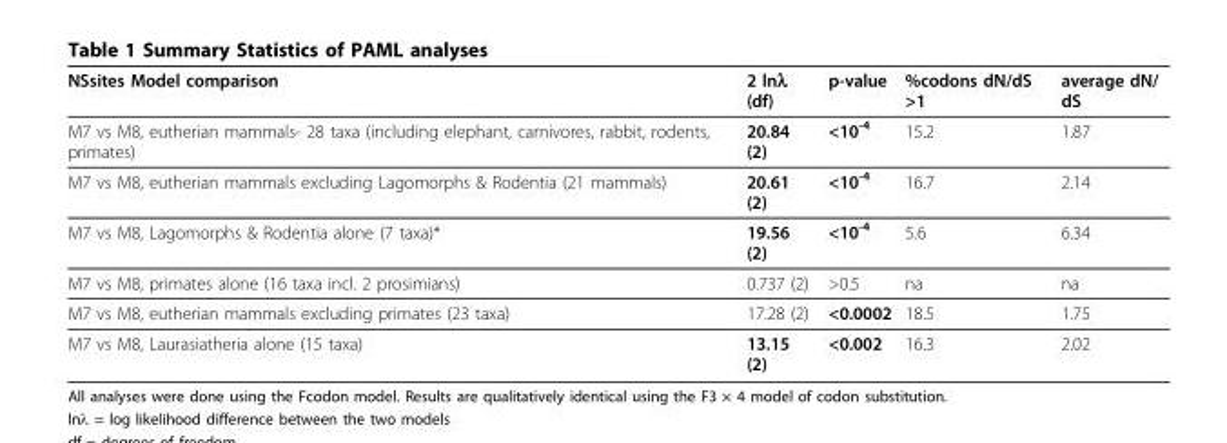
<table><thead><tr><td>NSsites Model comparison</td><td>2 lnλ (df)</td><td>p-value</td><td>%codons dN/dS &gt;1</td><td>average dN/ dS</td></tr></thead><tbody><tr><td>M7 vs M8, eutherian mammals- 28 taxa (including elephant, carnivores, rabbit, rodents, primates)</td><td>20.84 (2)</td><td>&lt;10<sup>-4</sup></td><td>15.2</td><td>1.87</td></tr><tr><td>M7 vs M8, eutherian mammals excluding Lagomorphs &amp; Rodentia (21 mammals)</td><td>20.61 (2)</td><td>&lt;10<sup>-4</sup></td><td>16.7</td><td>2.14</td></tr><tr><td>M7 vs M8, Lagomorphs &amp; Rodentia alone (7 taxa)*</td><td>19.56 (2)</td><td>&lt;10<sup>-4</sup></td><td>5.6</td><td>6.34</td></tr><tr><td>M7 vs M8, primates alone (16 taxa incl. 2 prosimians)</td><td>0.737 (2)</td><td>&gt;0.5</td><td>na</td><td>na</td></tr><tr><td>M7 vs M8, eutherian mammals excluding primates (23 taxa)</td><td>17.28 (2)</td><td>&lt;0.0002</td><td>18.5</td><td>1.75</td></tr><tr><td>M7 vs M8, Laurasiatheria alone (15 taxa)</td><td>13.15 (2)</td><td>&lt;0.002</td><td>16.3</td><td>2.02</td></tr></tbody></table>